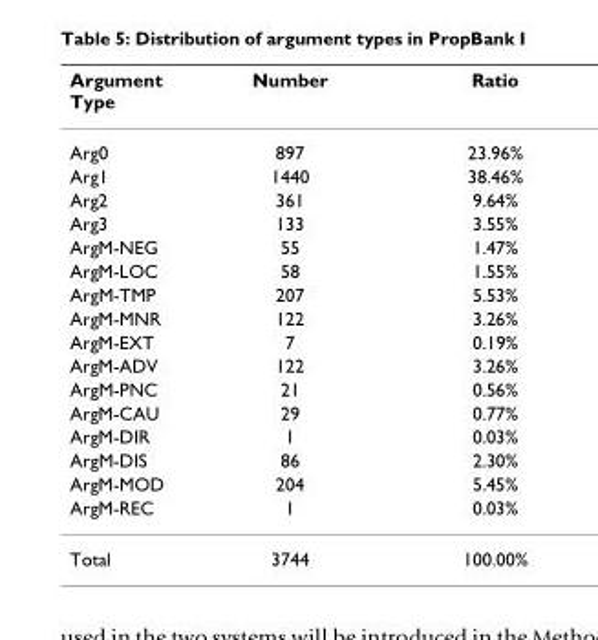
<table><thead><tr><td>Argument Type</td><td>Number</td><td>Ratio</td></tr></thead><tbody><tr><td>Arg0</td><td>897</td><td>23.96%</td></tr><tr><td>Arg1</td><td>1440</td><td>38.46%</td></tr><tr><td>Arg2</td><td>361</td><td>9.64%</td></tr><tr><td>Arg3</td><td>133</td><td>3.55%</td></tr><tr><td>ArgM-NEG</td><td>55</td><td>1.47%</td></tr><tr><td>ArgM-LOC</td><td>58</td><td>1.55%</td></tr><tr><td>ArgM-TMP</td><td>207</td><td>5.53%</td></tr><tr><td>ArgM-MNR</td><td>122</td><td>3.26%</td></tr><tr><td>ArgM-EXT</td><td>7</td><td>0.19%</td></tr><tr><td>ArgM-ADV</td><td>122</td><td>3.26%</td></tr><tr><td>ArgM-PNC</td><td>21</td><td>0.56%</td></tr><tr><td>ArgM-CAU</td><td>29</td><td>0.77%</td></tr><tr><td>ArgM-DIR</td><td>1</td><td>0.03%</td></tr><tr><td>ArgM-DIS</td><td>86</td><td>2.30%</td></tr><tr><td>ArgM-MOD</td><td>204</td><td>5.45%</td></tr><tr><td>ArgM-REC</td><td>1</td><td>0.03%</td></tr><tr><td>Total</td><td>3744</td><td>100.00%</td></tr></tbody></table>